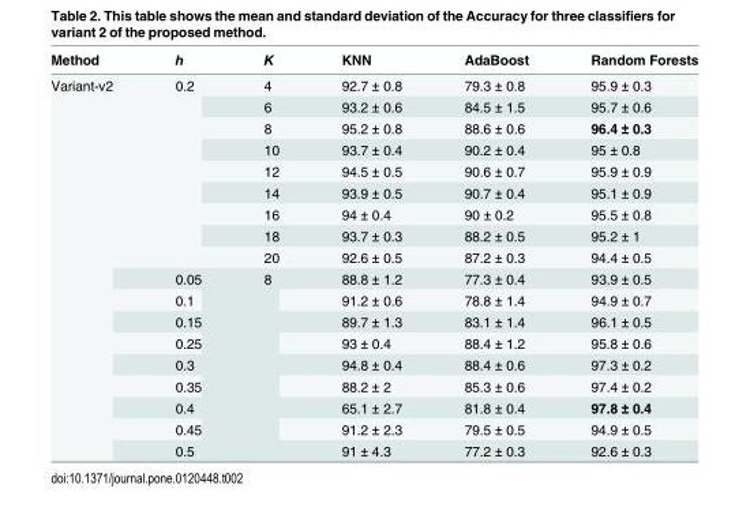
<table><thead><tr><td>Method</td><td>h</td><td>K</td><td>KNN</td><td>AdaBoost</td><td>Random Forests</td></tr></thead><tbody><tr><td rowspan="18">Variant-v2</td><td rowspan="9">0.2</td><td>4</td><td>92.7 ± 0.8</td><td>79.3 ± 0.8</td><td>95.9 ± 0.3</td></tr><tr><td>6</td><td>93.2 ± 0.6</td><td>84.5 ± 1.5</td><td>95.7 ± 0.6</td></tr><tr><td>8</td><td>95.2 ± 0.8</td><td>88.6 ± 0.6</td><td>96.4 ± 0.3</td></tr><tr><td>10</td><td>93.7 ± 0.4</td><td>90.2 ± 0.4</td><td>95 ± 0.8</td></tr><tr><td>12</td><td>94.5 ± 0.5</td><td>90.6 ± 0.7</td><td>95.9 ± 0.9</td></tr><tr><td>14</td><td>93.9 ± 0.5</td><td>90.7 ± 0.4</td><td>95.1 ± 0.9</td></tr><tr><td>16</td><td>94 ± 0.4</td><td>90 ± 0.2</td><td>95.5 ± 0.8</td></tr><tr><td>18</td><td>93.7 ± 0.3</td><td>88.2 ± 0.5</td><td>95.2 ± 1</td></tr><tr><td>20</td><td>92.6 ± 0.5</td><td>87.2 ± 0.3</td><td>94.4 ± 0.5</td></tr><tr><td>0.05</td><td rowspan="9">8</td><td>88.8 ± 1.2</td><td>77.3 ± 0.4</td><td>93.9 ± 0.5</td></tr><tr><td>0.1</td><td>91.2 ± 0.6</td><td>78.8 ± 1.4</td><td>94.9 ± 0.7</td></tr><tr><td>0.15</td><td>89.7 ± 1.3</td><td>83.1 ± 1.4</td><td>96.1 ± 0.5</td></tr><tr><td>0.25</td><td>93 ± 0.4</td><td>88.4 ± 1.2</td><td>95.8 ± 0.6</td></tr><tr><td>0.3</td><td>94.8 ± 0.4</td><td>88.4 ± 0.6</td><td>97.3 ± 0.2</td></tr><tr><td>0.35</td><td>88.2 ± 2</td><td>85.3 ± 0.6</td><td>97.4 ± 0.2</td></tr><tr><td>0.4</td><td>65.1 ± 2.7</td><td>81.8 ± 0.4</td><td>97.8 ± 0.4</td></tr><tr><td>0.45</td><td>91.2 ± 2.3</td><td>79.5 ± 0.5</td><td>94.9 ± 0.5</td></tr><tr><td>0.5</td><td>91 ± 4.3</td><td>77.2 ± 0.3</td><td>92.6 ± 0.3</td></tr></tbody></table>